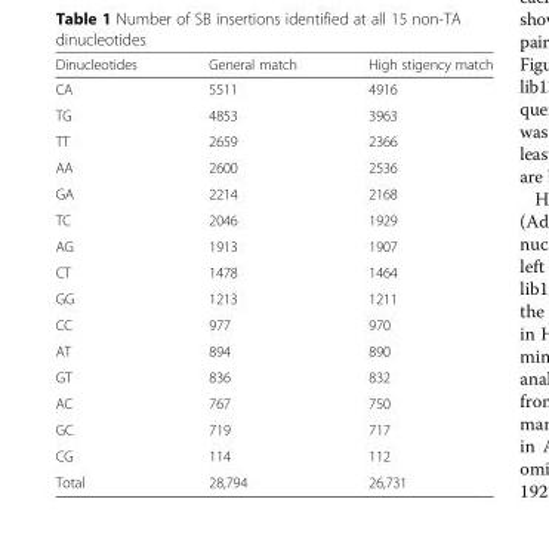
<table><thead><tr><td>Dinucleotides</td><td>General match</td><td>High stigency match</td></tr></thead><tbody><tr><td>CA</td><td>5511</td><td>4916</td></tr><tr><td>TG</td><td>4853</td><td>3963</td></tr><tr><td>TT</td><td>2659</td><td>2366</td></tr><tr><td>AA</td><td>2600</td><td>2536</td></tr><tr><td>GA</td><td>2214</td><td>2168</td></tr><tr><td>TC</td><td>2046</td><td>1929</td></tr><tr><td>AG</td><td>1913</td><td>1907</td></tr><tr><td>CT</td><td>1478</td><td>1464</td></tr><tr><td>GG</td><td>1213</td><td>1211</td></tr><tr><td>CC</td><td>977</td><td>970</td></tr><tr><td>AT</td><td>894</td><td>890</td></tr><tr><td>GT</td><td>836</td><td>832</td></tr><tr><td>AC</td><td>767</td><td>750</td></tr><tr><td>GC</td><td>719</td><td>717</td></tr><tr><td>CG</td><td>114</td><td>112</td></tr><tr><td>Total</td><td>28,794</td><td>26,731</td></tr></tbody></table>